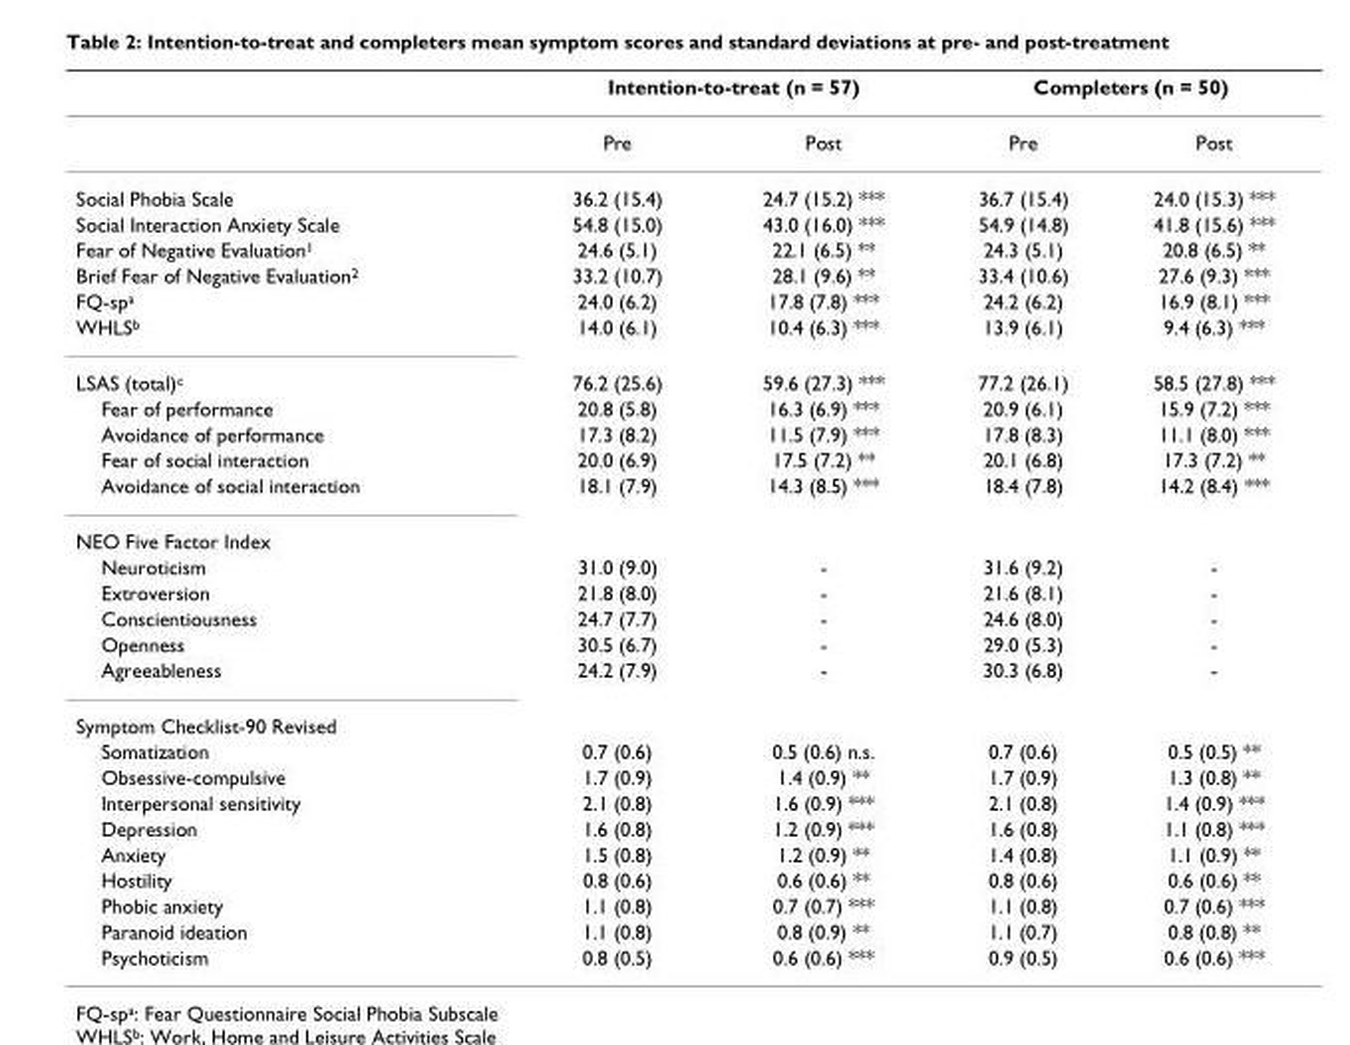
<table><thead><tr><td rowspan="2"></td><td colspan="2">Intention-to-treat (n = 57)</td><td colspan="2">Completers (n = 50)</td></tr><tr><td>Pre</td><td>Post</td><td>Pre</td><td>Post</td></tr></thead><tbody><tr><td>Social Phobia Scale</td><td>36.2 (15.4)</td><td>24.7 (15.2) ***</td><td>36.7 (15.4)</td><td>24.0 (15.3) ***</td></tr><tr><td>Social Interaction Anxiety Scale</td><td>54.8 (15.0)</td><td>43.0 (16.0) ***</td><td>54.9 (14.8)</td><td>41.8 (15.6) ***</td></tr><tr><td>Fear of Negative Evaluation<sup>1</sup></td><td>24.6 (5.1)</td><td>22.1 (6.5) **</td><td>24.3 (5.1)</td><td>20.8 (6.5) **</td></tr><tr><td>Brief Fear of Negative Evaluation<sup>2</sup></td><td>33.2 (10.7)</td><td>28.1 (9.6) **</td><td>33.4 (10.6)</td><td>27.6 (9.3) ***</td></tr><tr><td>FQ-sp<sup>a</sup></td><td>24.0 (6.2)</td><td>17.8 (7.8) ***</td><td>24.2 (6.2)</td><td>16.9 (8.1) ***</td></tr><tr><td>WHLS<sup>b</sup></td><td>14.0 (6.1)</td><td>10.4 (6.3) ***</td><td>13.9 (6.1)</td><td>9.4 (6.3) ***</td></tr><tr><td>LSAS (total)<sup>c</sup></td><td>76.2 (25.6)</td><td>59.6 (27.3) ***</td><td>77.2 (26.1)</td><td>58.5 (27.8) ***</td></tr><tr><td>Fear of performance</td><td>20.8 (5.8)</td><td>16.3 (6.9) ***</td><td>20.9 (6.1)</td><td>15.9 (7.2) ***</td></tr><tr><td>Avoidance of performance</td><td>17.3 (8.2)</td><td>11.5 (7.9) ***</td><td>17.8 (8.3)</td><td>11.1 (8.0) ***</td></tr><tr><td>Fear of social interaction</td><td>20.0 (6.9)</td><td>17.5 (7.2) **</td><td>20.1 (6.8)</td><td>17.3 (7.2) **</td></tr><tr><td>Avoidance of social interaction</td><td>18.1 (7.9)</td><td>14.3 (8.5) ***</td><td>18.4 (7.8)</td><td>14.2 (8.4) ***</td></tr><tr><td colspan="5">NEO Five Factor Index</td></tr><tr><td>Neuroticism</td><td>31.0 (9.0)</td><td>-</td><td>31.6 (9.2)</td><td>-</td></tr><tr><td>Extroversion</td><td>21.8 (8.0)</td><td>-</td><td>21.6 (8.1)</td><td>-</td></tr><tr><td>Conscientiousness</td><td>24.7 (7.7)</td><td>-</td><td>24.6 (8.0)</td><td>-</td></tr><tr><td>Openness</td><td>30.5 (6.7)</td><td>-</td><td>29.0 (5.3)</td><td>-</td></tr><tr><td>Agreeableness</td><td>24.2 (7.9)</td><td>-</td><td>30.3 (6.8)</td><td>-</td></tr><tr><td colspan="5">Symptom Checklist-90 Revised</td></tr><tr><td>Somatization</td><td>0.7 (0.6)</td><td>0.5 (0.6) n.s.</td><td>0.7 (0.6)</td><td>0.5 (0.5) **</td></tr><tr><td>Obsessive-compulsive</td><td>1.7 (0.9)</td><td>1.4 (0.9) **</td><td>1.7 (0.9)</td><td>1.3 (0.8) **</td></tr><tr><td>Interpersonal sensitivity</td><td>2.1 (0.8)</td><td>1.6 (0.9) ***</td><td>2.1 (0.8)</td><td>1.4 (0.9) ***</td></tr><tr><td>Depression</td><td>1.6 (0.8)</td><td>1.2 (0.9) ***</td><td>1.6 (0.8)</td><td>1.1 (0.8) ***</td></tr><tr><td>Anxiety</td><td>1.5 (0.8)</td><td>1.2 (0.9) **</td><td>1.4 (0.8)</td><td>1.1 (0.9) **</td></tr><tr><td>Hostility</td><td>0.8 (0.6)</td><td>0.6 (0.6) **</td><td>0.8 (0.6)</td><td>0.6 (0.6) **</td></tr><tr><td>Phobic anxiety</td><td>1.1 (0.8)</td><td>0.7 (0.7) ***</td><td>1.1 (0.8)</td><td>0.7 (0.6) ***</td></tr><tr><td>Paranoid ideation</td><td>1.1 (0.8)</td><td>0.8 (0.9) **</td><td>1.1 (0.7)</td><td>0.8 (0.8) **</td></tr><tr><td>Psychoticism</td><td>0.8 (0.5)</td><td>0.6 (0.6) ***</td><td>0.9 (0.5)</td><td>0.6 (0.6) ***</td></tr></tbody></table>